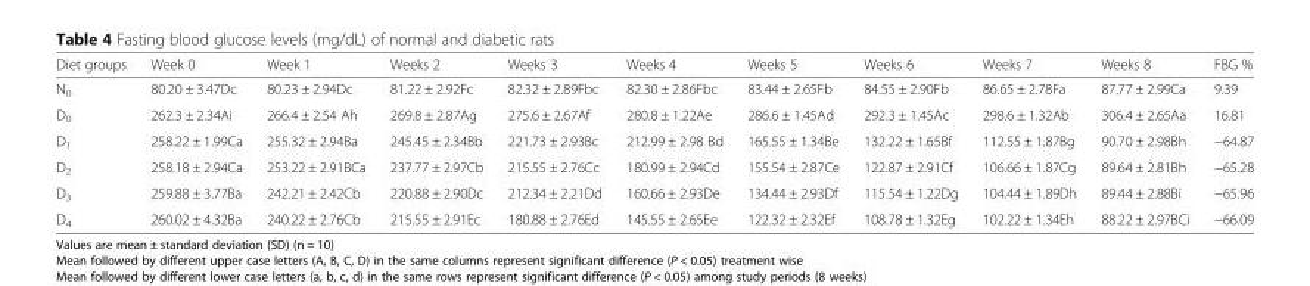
<table><thead><tr><td>Diet groups</td><td>Week 0</td><td>Week 1</td><td>Weeks 2</td><td>Weeks 3</td><td>Weeks 4</td><td>Weeks 5</td><td>Weeks 6</td><td>Weeks 7</td><td>Weeks 8</td><td>FBG %</td></tr></thead><tbody><tr><td>N<sub>0</sub></td><td>80.20 ± 3.47Dc</td><td>80.23 ± 2.94Dc</td><td>81.22 ± 2.92Fc</td><td>82.32 ± 2.89Fbc</td><td>82.30 ± 2.86Fbc</td><td>83.44 ± 2.65Fb</td><td>84.55 ± 2.90Fb</td><td>86.65 ± 2.78Fa</td><td>87.77 ± 2.99Ca</td><td>9.39</td></tr><tr><td>D<sub>0</sub></td><td>262.3 ± 2.34Ai</td><td>266.4 ± 2.54 Ah</td><td>269.8 ± 2.87Ag</td><td>275.6 ± 2.67Af</td><td>280.8 ± 1.22Ae</td><td>286.6 ± 1.45Ad</td><td>292.3 ± 1.45Ac</td><td>298.6 ± 1.32Ab</td><td>306.4 ± 2.65Aa</td><td>16.81</td></tr><tr><td>D<sub>1</sub></td><td>258.22 ± 1.99Ca</td><td>255.32 ± 2.94Ba</td><td>245.45 ± 2.34Bb</td><td>221.73 ± 2.93Bc</td><td>212.99 ± 2.98 Bd</td><td>165.55 ± 1.34Be</td><td>132.22 ± 1.65Bf</td><td>112.55 ± 1.87Bg</td><td>90.70 ± 2.98Bh</td><td>−64.87</td></tr><tr><td>D<sub>2</sub></td><td>258.18 ± 2.94Ca</td><td>253.22 ± 2.91BCa</td><td>237.77 ± 2.97Cb</td><td>215.55 ± 2.76Cc</td><td>180.99 ± 2.94Cd</td><td>155.54 ± 2.87Ce</td><td>122.87 ± 2.91Cf</td><td>106.66 ± 1.87Cg</td><td>89.64 ± 2.81Bh</td><td>−65.28</td></tr><tr><td>D<sub>3</sub></td><td>259.88 ± 3.77Ba</td><td>242.21 ± 2.42Cb</td><td>220.88 ± 2.90Dc</td><td>212.34 ± 2.21Dd</td><td>160.66 ± 2.93De</td><td>134.44 ± 2.93Df</td><td>115.54 ± 1.22Dg</td><td>104.44 ± 1.89Dh</td><td>89.44 ± 2.88Bi</td><td>−65.96</td></tr><tr><td>D<sub>4</sub></td><td>260.02 ± 4.32Ba</td><td>240.22 ± 2.76Cb</td><td>215.55 ± 2.91Ec</td><td>180.88 ± 2.76Ed</td><td>145.55 ± 2.65Ee</td><td>122.32 ± 2.32Ef</td><td>108.78 ± 1.32Eg</td><td>102.22 ± 1.34Eh</td><td>88.22 ± 2.97BCi</td><td>−66.09</td></tr></tbody></table>